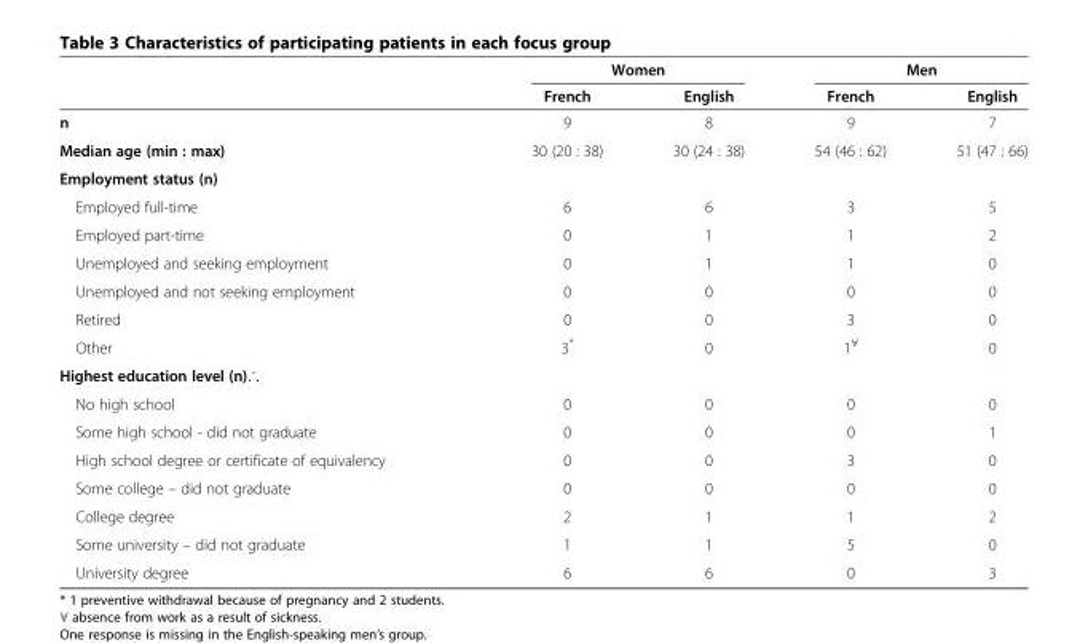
<table><thead><tr><td rowspan="2"></td><td colspan="2">Women</td><td colspan="2">Men</td></tr><tr><td>French</td><td>English</td><td>French</td><td>English</td></tr></thead><tbody><tr><td>n</td><td>9</td><td>8</td><td>9</td><td>7</td></tr><tr><td>Median age (min : max)</td><td>30 (20 : 38)</td><td>30 (24 : 38)</td><td>54 (46 : 62)</td><td>51 (47 : 66)</td></tr><tr><td colspan="5">Employment status (n)</td></tr><tr><td>Employed full-time</td><td>6</td><td>6</td><td>3</td><td>5</td></tr><tr><td>Employed part-time</td><td>0</td><td>1</td><td>1</td><td>2</td></tr><tr><td>Unemployed and seeking employment</td><td>0</td><td>1</td><td>1</td><td>0</td></tr><tr><td>Unemployed and not seeking employment</td><td>0</td><td>0</td><td>0</td><td>0</td></tr><tr><td>Retired</td><td>0</td><td>0</td><td>3</td><td>0</td></tr><tr><td>Other</td><td>3*</td><td>0</td><td>1<sup>∀</sup></td><td>0</td></tr><tr><td colspan="5">Highest education level (n)∴</td></tr><tr><td>No high school</td><td>0</td><td>0</td><td>0</td><td>0</td></tr><tr><td>Some high school - did not graduate</td><td>0</td><td>0</td><td>0</td><td>1</td></tr><tr><td>High school degree or certificate of equivalency</td><td>0</td><td>0</td><td>3</td><td>0</td></tr><tr><td>Some college – did not graduate</td><td>0</td><td>0</td><td>0</td><td>0</td></tr><tr><td>College degree</td><td>2</td><td>1</td><td>1</td><td>2</td></tr><tr><td>Some university – did not graduate</td><td>1</td><td>1</td><td>5</td><td>0</td></tr><tr><td>University degree</td><td>6</td><td>6</td><td>0</td><td>3</td></tr></tbody></table>